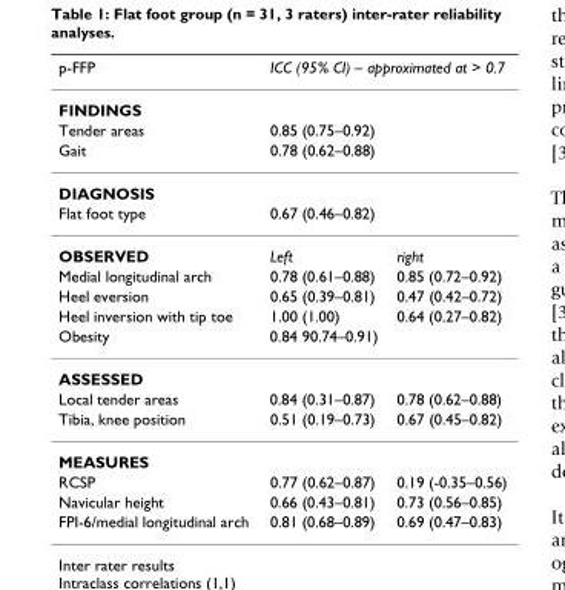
<table><thead><tr><td>p-FFP</td><td colspan="2">ICC (95% CI) – approximated at &gt; 0.7</td></tr><tr><td colspan="3">FINDINGS</td></tr><tr><td>Tender areas</td><td>0.85 (0.75–0.92)</td><td></td></tr></thead><tbody><tr><td>Gait</td><td>0.78 (0.62–0.88)</td><td></td></tr><tr><td colspan="3">DIAGNOSIS</td></tr><tr><td>Flat foot type</td><td>0.67 (0.46–0.82)</td><td></td></tr><tr><td>OBSERVED</td><td>Left</td><td>right</td></tr><tr><td>Medial longitudinal arch</td><td>0.78 (0.61–0.88)</td><td>0.85 (0.72–0.92)</td></tr><tr><td>Heel eversion</td><td>0.65 (0.39–0.81)</td><td>0.47 (0.42–0.72)</td></tr><tr><td>Heel inversion with tip toe</td><td>1.00 (1.00)</td><td>0.64 (0.27–0.82)</td></tr><tr><td>Obesity</td><td>0.84 90.74–0.91)</td><td></td></tr><tr><td colspan="3">ASSESSED</td></tr><tr><td>Local tender areas</td><td>0.84 (0.31–0.87)</td><td>0.78 (0.62–0.88)</td></tr><tr><td>Tibia, knee position</td><td>0.51 (0.19–0.73)</td><td>0.67 (0.45–0.82)</td></tr><tr><td colspan="3">MEASURES</td></tr><tr><td>RCSP</td><td>0.77 (0.62–0.87)</td><td>0.19 (-0.35–0.56)</td></tr><tr><td>Navicular height</td><td>0.66 (0.43–0.81)</td><td>0.73 (0.56–0.85)</td></tr><tr><td>FPI-6/medial longitudinal arch</td><td>0.81 (0.68–0.89)</td><td>0.69 (0.47–0.83)</td></tr></tbody></table>